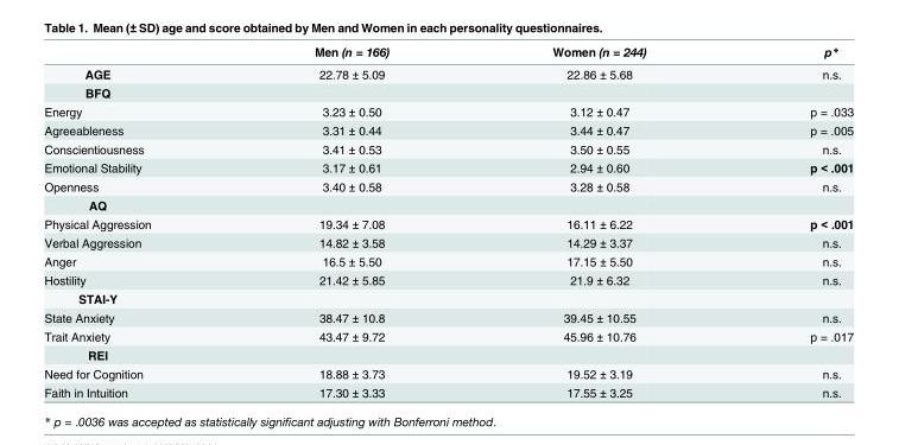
<table><thead><tr><td></td><td>Men (n = 166)</td><td>Women (n = 244)</td><td>p*</td></tr></thead><tbody><tr><td>AGE</td><td>22.78 ± 5.09</td><td>22.86 ± 5.68</td><td>n.s.</td></tr><tr><td colspan="4">BFQ</td></tr><tr><td>Energy</td><td>3.23 ± 0.50</td><td>3.12 ± 0.47</td><td>p = .033</td></tr><tr><td>Agreeableness</td><td>3.31 ± 0.44</td><td>3.44 ± 0.47</td><td>p = .005</td></tr><tr><td>Conscientiousness</td><td>3.41 ± 0.53</td><td>3.50 ± 0.55</td><td>n.s.</td></tr><tr><td>Emotional Stability</td><td>3.17 ± 0.61</td><td>2.94 ± 0.60</td><td>p &lt; .001</td></tr><tr><td>Openness</td><td>3.40 ± 0.58</td><td>3.28 ± 0.58</td><td>n.s.</td></tr><tr><td colspan="4">AQ</td></tr><tr><td>Physical Aggression</td><td>19.34 ± 7.08</td><td>16.11 ± 6.22</td><td>p &lt; .001</td></tr><tr><td>Verbal Aggression</td><td>14.82 ± 3.58</td><td>14.29 ± 3.37</td><td>n.s.</td></tr><tr><td>Anger</td><td>16.5 ± 5.50</td><td>17.15 ± 5.50</td><td>n.s.</td></tr><tr><td>Hostility</td><td>21.42 ± 5.85</td><td>21.9 ± 6.32</td><td>n.s.</td></tr><tr><td colspan="4">STAI-Y</td></tr><tr><td>State Anxiety</td><td>38.47 ± 10.8</td><td>39.45 ± 10.55</td><td>n.s.</td></tr><tr><td>Trait Anxiety</td><td>43.47 ± 9.72</td><td>45.96 ± 10.76</td><td>p = .017</td></tr><tr><td colspan="4">REI</td></tr><tr><td>Need for Cognition</td><td>18.88 ± 3.73</td><td>19.52 ± 3.19</td><td>n.s.</td></tr><tr><td>Faith in Intuition</td><td>17.30 ± 3.33</td><td>17.55 ± 3.25</td><td>n.s.</td></tr></tbody></table>